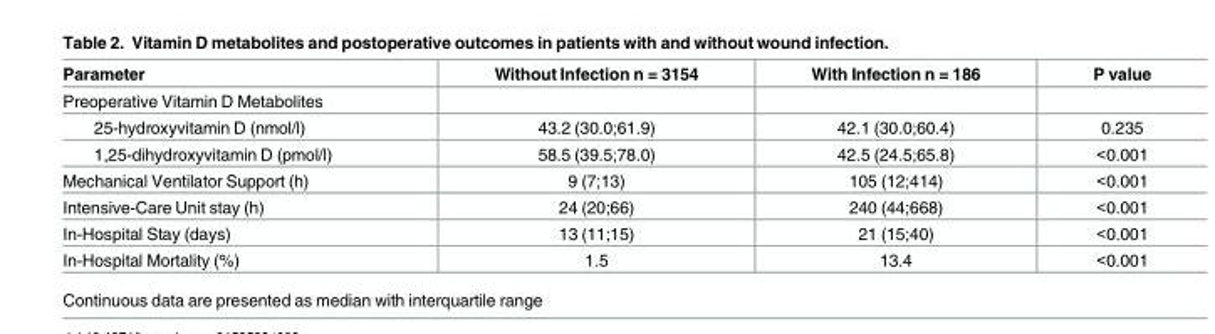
<table><thead><tr><td>Parameter</td><td>Without Infection n = 3154</td><td>With Infection n = 186</td><td>P value</td></tr></thead><tbody><tr><td colspan="4">Preoperative Vitamin D Metabolites</td></tr><tr><td>25-hydroxyvitamin D (nmol/l)</td><td>43.2 (30.0;61.9)</td><td>42.1 (30.0;60.4)</td><td>0.235</td></tr><tr><td>1,25-dihydroxyvitamin D (pmol/l)</td><td>58.5 (39.5;78.0)</td><td>42.5 (24.5;65.8)</td><td>&lt;0.001</td></tr><tr><td>Mechanical Ventilator Support (h)</td><td>9 (7;13)</td><td>105 (12;414)</td><td>&lt;0.001</td></tr><tr><td>Intensive-Care Unit stay (h)</td><td>24 (20;66)</td><td>240 (44;668)</td><td>&lt;0.001</td></tr><tr><td>In-Hospital Stay (days)</td><td>13 (11;15)</td><td>21 (15;40)</td><td>&lt;0.001</td></tr><tr><td>In-Hospital Mortality (%)</td><td>1.5</td><td>13.4</td><td>&lt;0.001</td></tr></tbody></table>